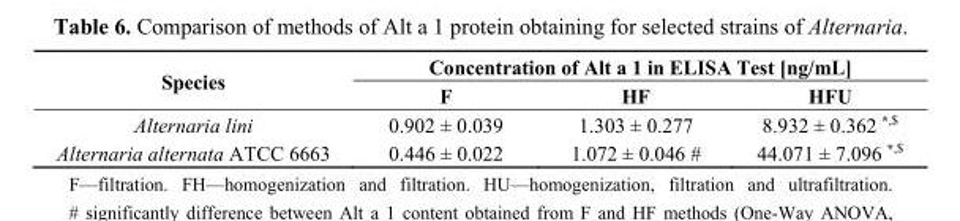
<table><thead><tr><td rowspan="2">Species</td><td colspan="3">Concentration of Alt a 1 in ELISA Test [ng/mL]</td></tr><tr><td>F</td><td>HF</td><td>HFU</td></tr></thead><tbody><tr><td>Alternaria lini</td><td>0.902 ± 0.039</td><td>1.303 ± 0.277</td><td>8.932 ± 0.362 <sup>*,$</sup></td></tr><tr><td>Alternaria alternata ATCC 6663</td><td>0.446 ± 0.022</td><td>1.072 ± 0.046 #</td><td>44.071 ± 7.096 <sup>*,$</sup></td></tr></tbody></table>